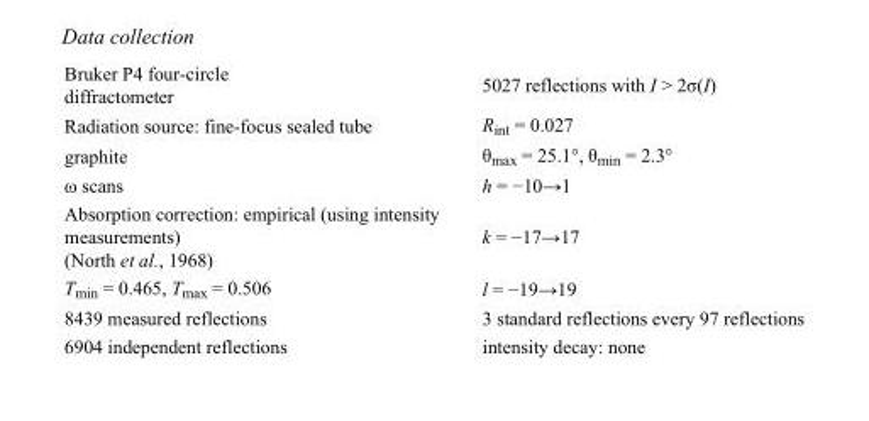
<table><tbody><tr><td>Bruker P4 four-circle diffractometer</td><td>5027 reflections with I &gt; 2σ(I)</td></tr><tr><td>Radiation source: fine-focus sealed tube</td><td>R<sub>int</sub> = 0.027</td></tr><tr><td>graphite</td><td>θ<sub>max</sub> = 25.1°, θ<sub>min</sub> = 2.3°</td></tr><tr><td>ω scans</td><td>h = −10→1</td></tr><tr><td>Absorption correction: empirical (using intensity measurements) (North et al., 1968)</td><td>k = −17→17</td></tr><tr><td>T<sub>min</sub> = 0.465, T<sub>max</sub> = 0.506</td><td>l = −19→19</td></tr><tr><td>8439 measured reflections</td><td>3 standard reflections every 97 reflections</td></tr><tr><td>6904 independent reflections</td><td>intensity decay: none</td></tr></tbody></table>